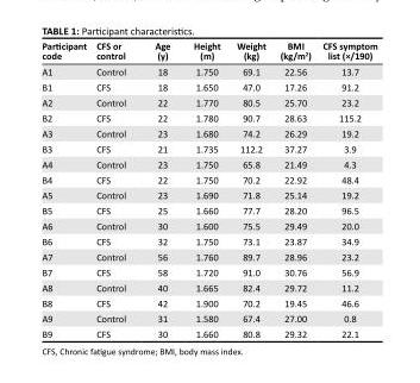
<table><thead><tr><td>Participant code</td><td>CFS or control</td><td>Age (y)</td><td>Height (m)</td><td>Weight (kg)</td><td>BMI (kg/m<sup>2</sup>)</td><td>CFS symptom list (×/190)</td></tr></thead><tbody><tr><td>A1</td><td>Control</td><td>18</td><td>1.750</td><td>69.1</td><td>22.56</td><td>13.7</td></tr><tr><td>B1</td><td>CFS</td><td>18</td><td>1.650</td><td>47.0</td><td>17.26</td><td>91.2</td></tr><tr><td>A2</td><td>Control</td><td>22</td><td>1.770</td><td>80.5</td><td>25.70</td><td>23.2</td></tr><tr><td>B2</td><td>CFS</td><td>22</td><td>1.780</td><td>90.7</td><td>28.63</td><td>115.2</td></tr><tr><td>A3</td><td>Control</td><td>23</td><td>1.680</td><td>74.2</td><td>26.29</td><td>19.2</td></tr><tr><td>B3</td><td>CFS</td><td>21</td><td>1.735</td><td>112.2</td><td>37.27</td><td>3.9</td></tr><tr><td>A4</td><td>Control</td><td>23</td><td>1.750</td><td>65.8</td><td>21.49</td><td>4.3</td></tr><tr><td>B4</td><td>CFS</td><td>22</td><td>1.750</td><td>70.2</td><td>22.92</td><td>48.4</td></tr><tr><td>A5</td><td>Control</td><td>23</td><td>1.690</td><td>71.8</td><td>25.14</td><td>19.2</td></tr><tr><td>B5</td><td>CFS</td><td>25</td><td>1.660</td><td>77.7</td><td>28.20</td><td>96.5</td></tr><tr><td>A6</td><td>Control</td><td>30</td><td>1.600</td><td>75.5</td><td>29.49</td><td>20.0</td></tr><tr><td>B6</td><td>CFS</td><td>32</td><td>1.750</td><td>73.1</td><td>23.87</td><td>34.9</td></tr><tr><td>A7</td><td>Control</td><td>56</td><td>1.760</td><td>89.7</td><td>28.96</td><td>23.2</td></tr><tr><td>B7</td><td>CFS</td><td>58</td><td>1.720</td><td>91.0</td><td>30.76</td><td>56.9</td></tr><tr><td>A8</td><td>Control</td><td>40</td><td>1.665</td><td>82.4</td><td>29.72</td><td>11.2</td></tr><tr><td>B8</td><td>CFS</td><td>42</td><td>1.900</td><td>70.2</td><td>19.45</td><td>46.6</td></tr><tr><td>A9</td><td>Control</td><td>31</td><td>1.580</td><td>67.4</td><td>27.00</td><td>0.8</td></tr><tr><td>B9</td><td>CFS</td><td>30</td><td>1.660</td><td>80.8</td><td>29.32</td><td>22.1</td></tr></tbody></table>